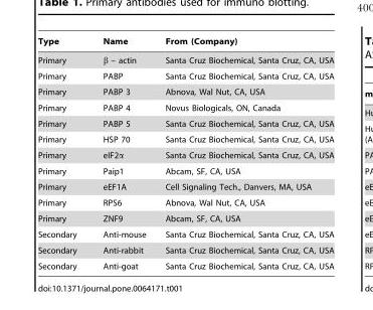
<table><thead><tr><td>Type</td><td>Name</td><td>From (Company)</td></tr></thead><tbody><tr><td>Primary</td><td>β – actin</td><td>Santa Cruz Biochemical, Santa Cruz, CA, USA</td></tr><tr><td>Primary</td><td>PABP</td><td>Santa Cruz Biochemical, Santa Cruz, CA, USA</td></tr><tr><td>Primary</td><td>PABP 3</td><td>Abnova, Wal Nut, CA, USA</td></tr><tr><td>Primary</td><td>PABP 4</td><td>Novus Biologicals, ON, Canada</td></tr><tr><td>Primary</td><td>PABP 5</td><td>Santa Cruz Biochemical, Santa Cruz, CA, USA</td></tr><tr><td>Primary</td><td>HSP 70</td><td>Santa Cruz Biochemical, Santa Cruz, CA, USA</td></tr><tr><td>Primary</td><td>eIF2α</td><td>Santa Cruz Biochemical, Santa Cruz, CA, USA</td></tr><tr><td>Primary</td><td>Paip1</td><td>Abcam, SF, CA, USA</td></tr><tr><td>Primary</td><td>eEF1A</td><td>Cell Signaling Tech., Danvers, MA, USA</td></tr><tr><td>Primary</td><td>RPS6</td><td>Abnova, Wal Nut, CA, USA</td></tr><tr><td>Primary</td><td>ZNF9</td><td>Abcam, SF, CA, USA</td></tr><tr><td>Secondary</td><td>Anti-mouse</td><td>Santa Cruz Biochemical, Santa Cruz, CA, USA</td></tr><tr><td>Secondary</td><td>Anti-rabbit</td><td>Santa Cruz Biochemical, Santa Cruz, CA, USA</td></tr><tr><td>Secondary</td><td>Anti-goat</td><td>Santa Cruz Biochemical, Santa Cruz, CA, USA</td></tr></tbody></table>